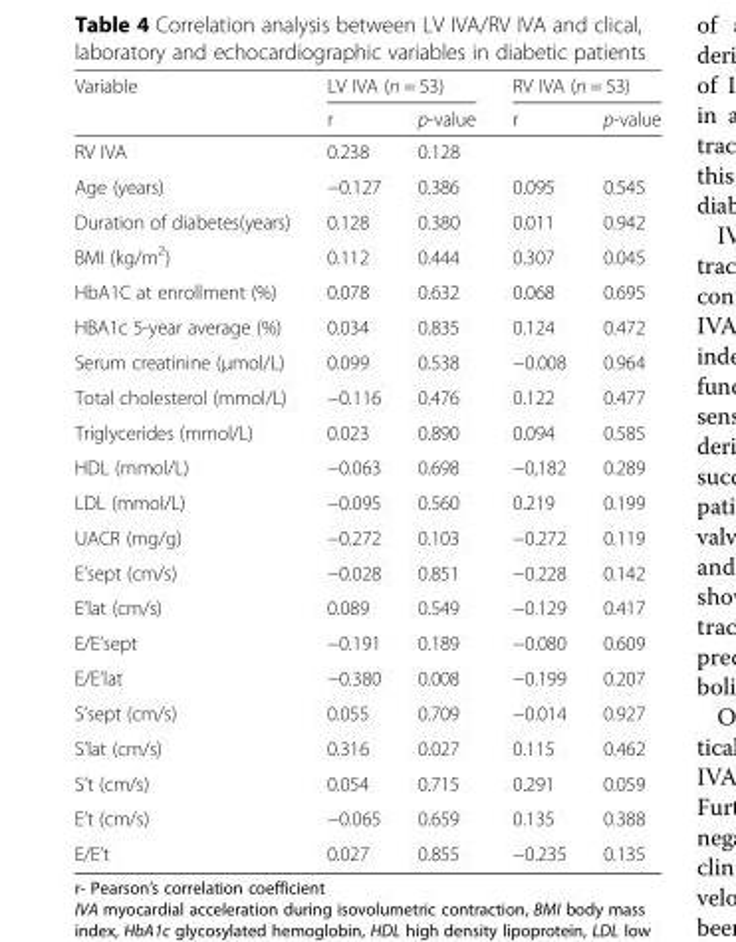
<table><thead><tr><td rowspan="2">Variable</td><td colspan="2">LV IVA (n = 53)</td><td colspan="2">RV IVA (n = 53)</td></tr><tr><td>r</td><td>p-value</td><td>r</td><td>p-value</td></tr></thead><tbody><tr><td>RV IVA</td><td>0.238</td><td>0.128</td><td></td><td></td></tr><tr><td>Age (years)</td><td>−0.127</td><td>0.386</td><td>0.095</td><td>0.545</td></tr><tr><td>Duration of diabetes(years)</td><td>0.128</td><td>0.380</td><td>0.011</td><td>0.942</td></tr><tr><td>BMI (kg/m<sup>2</sup>)</td><td>0.112</td><td>0.444</td><td>0.307</td><td>0.045</td></tr><tr><td>HbA1C at enrollment (%)</td><td>0.078</td><td>0.632</td><td>0.068</td><td>0.695</td></tr><tr><td>HBA1c 5-year average (%)</td><td>0.034</td><td>0.835</td><td>0.124</td><td>0.472</td></tr><tr><td>Serum creatinine (μmol/L)</td><td>0.099</td><td>0.538</td><td>−0.008</td><td>0.964</td></tr><tr><td>Total cholesterol (mmol/L)</td><td>−0.116</td><td>0.476</td><td>0.122</td><td>0.477</td></tr><tr><td>Triglycerides (mmol/L)</td><td>0.023</td><td>0.890</td><td>0.094</td><td>0.585</td></tr><tr><td>HDL (mmol/L)</td><td>−0.063</td><td>0.698</td><td>−0,182</td><td>0.289</td></tr><tr><td>LDL (mmol/L)</td><td>−0.095</td><td>0.560</td><td>0.219</td><td>0.199</td></tr><tr><td>UACR (mg/g)</td><td>−0.272</td><td>0.103</td><td>−0.272</td><td>0.119</td></tr><tr><td>E’sept (cm/s)</td><td>−0.028</td><td>0.851</td><td>−0.228</td><td>0.142</td></tr><tr><td>E’lat (cm/s)</td><td>0.089</td><td>0.549</td><td>−0.129</td><td>0.417</td></tr><tr><td>E/E’sept</td><td>−0.191</td><td>0.189</td><td>−0.080</td><td>0.609</td></tr><tr><td>E/E’lat</td><td>−0.380</td><td>0.008</td><td>−0.199</td><td>0.207</td></tr><tr><td>S’sept (cm/s)</td><td>0.055</td><td>0.709</td><td>−0.014</td><td>0.927</td></tr><tr><td>S’lat (cm/s)</td><td>0.316</td><td>0.027</td><td>0.115</td><td>0.462</td></tr><tr><td>S’t (cm/s)</td><td>0.054</td><td>0.715</td><td>0.291</td><td>0.059</td></tr><tr><td>E’t (cm/s)</td><td>−0.065</td><td>0.659</td><td>0.135</td><td>0.388</td></tr><tr><td>E/E’t</td><td>0.027</td><td>0.855</td><td>−0.235</td><td>0.135</td></tr></tbody></table>